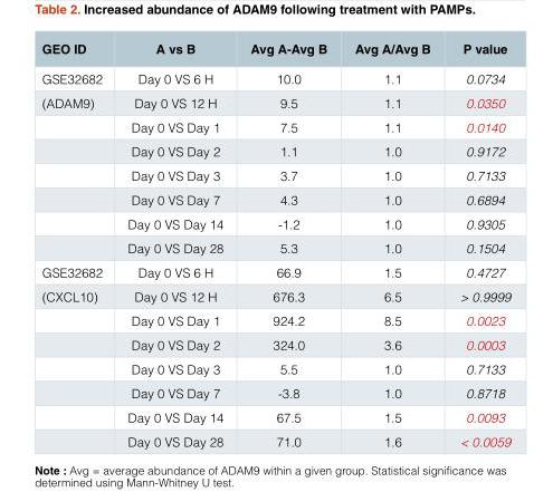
<table><thead><tr><td>GEO ID</td><td>A vs B</td><td>Avg A-Avg B</td><td>Avg A/Avg B</td><td>P value</td></tr></thead><tbody><tr><td>GSE32682</td><td>Day 0 VS 6 H</td><td>10.0</td><td>1.1</td><td>0.0734</td></tr><tr><td rowspan="7">(ADAM9)</td><td>Day 0 VS 12 H</td><td>9.5</td><td>1.1</td><td>0.0350</td></tr><tr><td>Day 0 VS Day 1</td><td>7.5</td><td>1.1</td><td>0.0140</td></tr><tr><td>Day 0 VS Day 2</td><td>1.1</td><td>1.0</td><td>0.9172</td></tr><tr><td>Day 0 VS Day 3</td><td>3.7</td><td>1.0</td><td>0.7133</td></tr><tr><td>Day 0 VS Day 7</td><td>4.3</td><td>1.0</td><td>0.6894</td></tr><tr><td>Day 0 VS Day 14</td><td>-1.2</td><td>1.0</td><td>0.9305</td></tr><tr><td>Day 0 VS Day 28</td><td>5.3</td><td>1.0</td><td>0.1504</td></tr><tr><td>GSE32682</td><td>Day 0 VS 6 H</td><td>66.9</td><td>1.5</td><td>0.4727</td></tr><tr><td rowspan="7">(CXCL10)</td><td>Day 0 VS 12 H</td><td>676.3</td><td>6.5</td><td>&gt; 0.9999</td></tr><tr><td>Day 0 VS Day 1</td><td>924.2</td><td>8.5</td><td>0.0023</td></tr><tr><td>Day 0 VS Day 2</td><td>324.0</td><td>3.6</td><td>0.0003</td></tr><tr><td>Day 0 VS Day 3</td><td>5.5</td><td>1.0</td><td>0.7133</td></tr><tr><td>Day 0 VS Day 7</td><td>-3.8</td><td>1.0</td><td>0.8718</td></tr><tr><td>Day 0 VS Day 14</td><td>67.5</td><td>1.5</td><td>0.0093</td></tr><tr><td>Day 0 VS Day 28</td><td>71.0</td><td>1.6</td><td>&lt; 0.0059</td></tr></tbody></table>